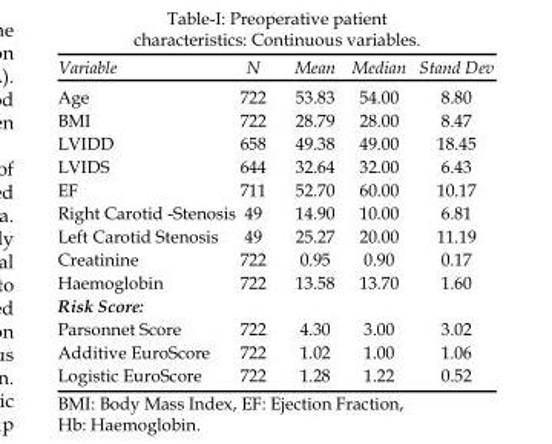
<table><thead><tr><td>Variable</td><td>N</td><td>Mean</td><td>Median</td><td>Stand Dev</td></tr></thead><tbody><tr><td>Age</td><td>722</td><td>53.83</td><td>54.00</td><td>8.80</td></tr><tr><td>BMI</td><td>722</td><td>28.79</td><td>28.00</td><td>8.47</td></tr><tr><td>LVIDD</td><td>658</td><td>49.38</td><td>49.00</td><td>18.45</td></tr><tr><td>LVIDS</td><td>644</td><td>32.64</td><td>32.00</td><td>6.43</td></tr><tr><td>EF</td><td>711</td><td>52.70</td><td>60.00</td><td>10.17</td></tr><tr><td>Right Carotid -Stenosis</td><td>49</td><td>14.90</td><td>10.00</td><td>6.81</td></tr><tr><td>Left Carotid Stenosis</td><td>49</td><td>25.27</td><td>20.00</td><td>11.19</td></tr><tr><td>Creatinine</td><td>722</td><td>0.95</td><td>0.90</td><td>0.17</td></tr><tr><td>Haemoglobin</td><td>722</td><td>13.58</td><td>13.70</td><td>1.60</td></tr><tr><td colspan="5">Risk Score:</td></tr><tr><td>Parsonnet Score</td><td>722</td><td>4.30</td><td>3.00</td><td>3.02</td></tr><tr><td>Additive EuroScore</td><td>722</td><td>1.02</td><td>1.00</td><td>1.06</td></tr><tr><td>Logistic EuroScore</td><td>722</td><td>1.28</td><td>1.22</td><td>0.52</td></tr></tbody></table>